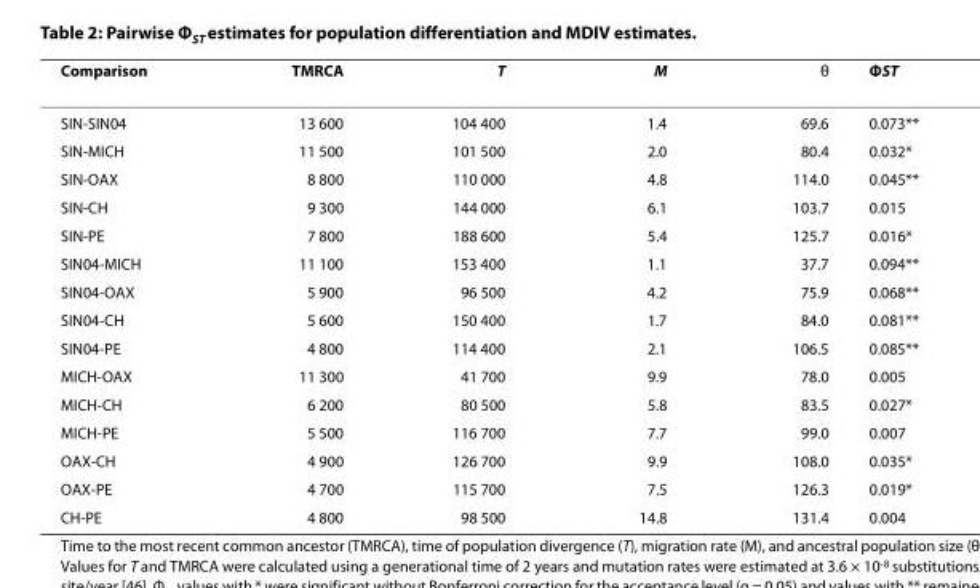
<table><thead><tr><td>Comparison</td><td>TMRCA</td><td>T</td><td>M</td><td>θ</td><td>Φ<sub>ST</sub></td></tr></thead><tbody><tr><td>SIN-SIN04</td><td>13 600</td><td>104 400</td><td>1.4</td><td>69.6</td><td>0.073**</td></tr><tr><td>SIN-MICH</td><td>11 500</td><td>101 500</td><td>2.0</td><td>80.4</td><td>0.032*</td></tr><tr><td>SIN-OAX</td><td>8 800</td><td>110 000</td><td>4.8</td><td>114.0</td><td>0.045**</td></tr><tr><td>SIN-CH</td><td>9 300</td><td>144 000</td><td>6.1</td><td>103.7</td><td>0.015</td></tr><tr><td>SIN-PE</td><td>7 800</td><td>188 600</td><td>5.4</td><td>125.7</td><td>0.016*</td></tr><tr><td>SIN04-MICH</td><td>11 100</td><td>153 400</td><td>1.1</td><td>37.7</td><td>0.094**</td></tr><tr><td>SIN04-OAX</td><td>5 900</td><td>96 500</td><td>4.2</td><td>75.9</td><td>0.068**</td></tr><tr><td>SIN04-CH</td><td>5 600</td><td>150 400</td><td>1.7</td><td>84.0</td><td>0.081**</td></tr><tr><td>SIN04-PE</td><td>4 800</td><td>114 400</td><td>2.1</td><td>106.5</td><td>0.085**</td></tr><tr><td>MICH-OAX</td><td>11 300</td><td>41 700</td><td>9.9</td><td>78.0</td><td>0.005</td></tr><tr><td>MICH-CH</td><td>6 200</td><td>80 500</td><td>5.8</td><td>83.5</td><td>0.027*</td></tr><tr><td>MICH-PE</td><td>5 500</td><td>116 700</td><td>7.7</td><td>99.0</td><td>0.007</td></tr><tr><td>OAX-CH</td><td>4 900</td><td>126 700</td><td>9.9</td><td>108.0</td><td>0.035*</td></tr><tr><td>OAX-PE</td><td>4 700</td><td>115 700</td><td>7.5</td><td>126.3</td><td>0.019*</td></tr><tr><td>CH-PE</td><td>4 800</td><td>98 500</td><td>14.8</td><td>131.4</td><td>0.004</td></tr></tbody></table>